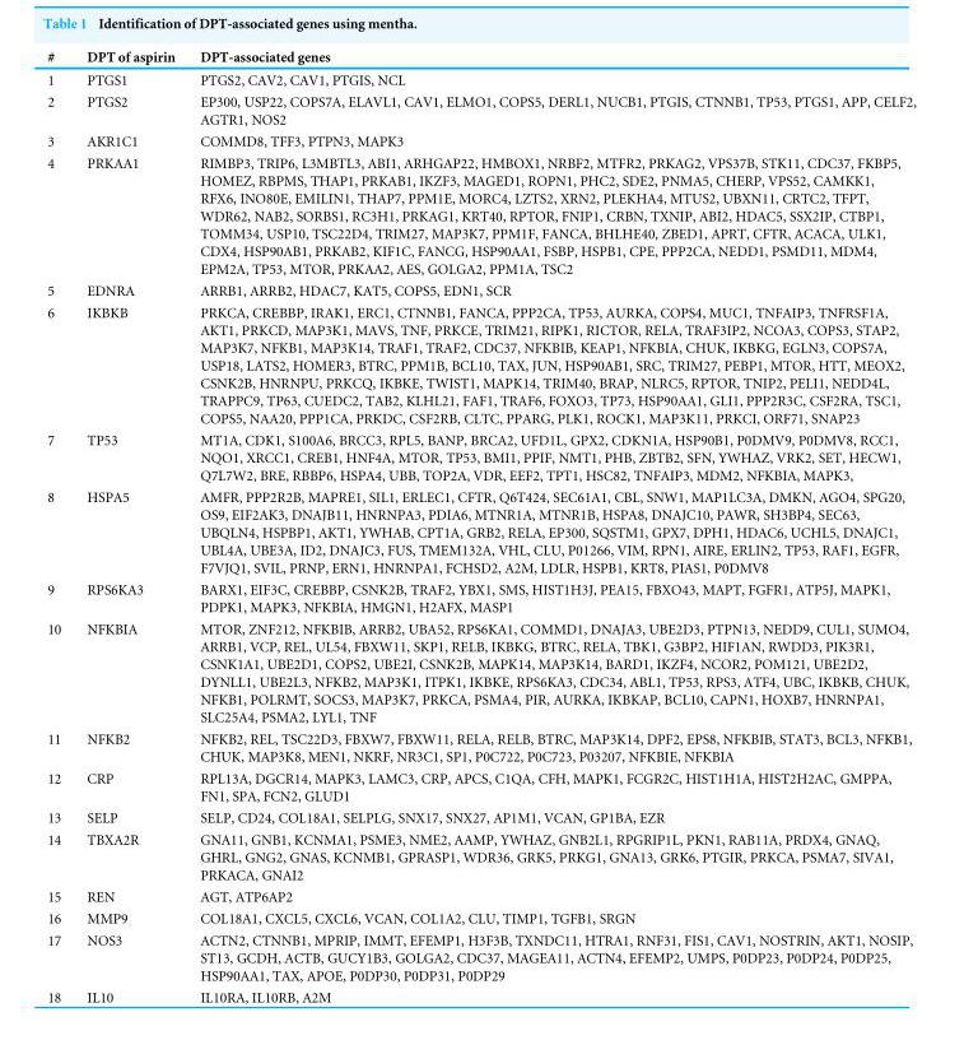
<table><thead><tr><td>#</td><td>DPT of aspirin</td><td>DPT-associated genes</td></tr></thead><tbody><tr><td>1</td><td>PTGS1</td><td>PTGS2, CAV2, CAV1, PTGIS, NCL</td></tr><tr><td>2</td><td>PTGS2</td><td>EP300, USP22, COPS7A, ELAVL1, CAV1, ELMO1, COPS5, DERL1, NUCB1, PTGIS, CTNNB1, TP53, PTGS1, APP, CELF2, AGTR1, NOS2</td></tr><tr><td>3</td><td>AKR1C1</td><td>COMMD8, TFF3, PTPN3, MAPK3</td></tr><tr><td>4</td><td>PRKAA1</td><td>RIMBP3, TRIP6, L3MBTL3, ABI1, ARHGAP22, HMBOX1, NRBF2, MTFR2, PRKAG2, VPS37B, STK11, CDC37, FKBP5, HOMEZ, RBPMS, THAP1, PRKAB1, IKZF3, MAGED1, ROPN1, PHC2, SDE2, PNMA5, CHERP, VPS52, CAMKK1, RFX6, INO80E, EMILIN1, THAP7, PPM1E, MORC4, LZTS2, XRN2, PLEKHA4, MTUS2, UBXN11, CRTC2, TFPT, WDR62, NAB2, SORBS1, RC3H1, PRKAG1, KRT40, RPTOR, FNIP1, CRBN, TXNIP, ABI2, HDAC5, SSX2IP, CTBP1, TOMM34, USP10, TSC22D4, TRIM27, MAP3K7, PPM1F, FANCA, BHLHE40, ZBED1, APRT, CFTR, ACACA, ULK1, CDX4, HSP90AB1, PRKAB2, KIF1C, FANCG, HSP90AA1, FSBP, HSPB1, CPE, PPP2CA, NEDD1, PSMD11, MDM4, EPM2A, TP53, MTOR, PRKAA2, AES, GOLGA2, PPM1A, TSC2</td></tr><tr><td>5</td><td>EDNRA</td><td>ARRB1, ARRB2, HDAC7, KAT5, COPS5, EDN1, SCR</td></tr><tr><td>6</td><td>IKBKB</td><td>PRKCA, CREBBP, IRAK1, ERC1, CTNNB1, FANCA, PPP2CA, TP53, AURKA, COPS4, MUC1, TNFAIP3, TNFRSF1A, AKT1, PRKCD, MAP3K1, MAVS, TNF, PRKCE, TRIM21, RIPK1, RICTOR, RELA, TRAF3IP2, NCOA3, COPS3, STAP2, MAP3K7, NFKB1, MAP3K14, TRAF1, TRAF2, CDC37, NFKBIB, KEAP1, NFKBIA, CHUK, IKBKG, EGLN3, COPS7A, USP18, LATS2, HOMER3, BTRC, PPM1B, BCL10, TAX, JUN, HSP90AB1, SRC, TRIM27, PEBP1, MTOR, HTT, MEOX2, CSNK2B, HNRNPU, PRKCQ, IKBKE, TWIST1, MAPK14, TRIM40, BRAP, NLRC5, RPTOR, TNIP2, PELI1, NEDD4L, TRAPPC9, TP63, CUEDC2, TAB2, KLHL21, FAF1, TRAF6, FOXO3, TP73, HSP90AA1, GLI1, PPP2R3C, CSF2RA, TSC1, COPS5, NAA20, PPP1CA, PRKDC, CSF2RB, CLTC, PPARG, PLK1, ROCK1, MAP3K11, PRKCI, ORF71, SNAP23</td></tr><tr><td>7</td><td>TP53</td><td>MT1A, CDK1, S100A6, BRCC3, RPL5, BANP, BRCA2, UFD1L, GPX2, CDKN1A, HSP90B1, P0DMV9, P0DMV8, RCC1, NQO1, XRCC1, CREB1, HNF4A, MTOR, TP53, BMI1, PPIF, NMT1, PHB, ZBTB2, SFN, YWHAZ, VRK2, SET, HECW1, Q7L7W2, BRE, RBBP6, HSPA4, UBB, TOP2A, VDR, EEF2, TPT1, HSC82, TNFAIP3, MDM2, NFKBIA, MAPK3,</td></tr><tr><td>8</td><td>HSPA5</td><td>AMFR, PPP2R2B, MAPRE1, SIL1, ERLEC1, CFTR, Q6T424, SEC61A1, CBL, SNW1, MAP1LC3A, DMKN, AGO4, SPG20, OS9, EIF2AK3, DNAJB11, HNRNPA3, PDIA6, MTNR1A, MTNR1B, HSPA8, DNAJC10, PAWR, SH3BP4, SEC63, UBQLN4, HSPBP1, AKT1, YWHAB, CPT1A, GRB2, RELA, EP300, SQSTM1, GPX7, DPH1, HDAC6, UCHL5, DNAJC1, UBL4A, UBE3A, ID2, DNAJC3, FUS, TMEM132A, VHL, CLU, P01266, VIM, RPN1, AIRE, ERLIN2, TP53, RAF1, EGFR, F7VJQ1, SVIL, PRNP, ERN1, HNRNPA1, FCHSD2, A2M, LDLR, HSPB1, KRT8, PIAS1, P0DMV8</td></tr><tr><td>9</td><td>RPS6KA3</td><td>BARX1, EIF3C, CREBBP, CSNK2B, TRAF2, YBX1, SMS, HIST1H3J, PEA15, FBXO43, MAPT, FGFR1, ATP5J, MAPK1, PDPK1, MAPK3, NFKBIA, HMGN1, H2AFX, MASP1</td></tr><tr><td>10</td><td>NFKBIA</td><td>MTOR, ZNF212, NFKBIB, ARRB2, UBA52, RPS6KA1, COMMD1, DNAJA3, UBE2D3, PTPN13, NEDD9, CUL1, SUMO4, ARRB1, VCP, REL, UL54, FBXW11, SKP1, RELB, IKBKG, BTRC, RELA, TBK1, G3BP2, HIF1AN, RWDD3, PIK3R1, CSNK1A1, UBE2D1, COPS2, UBE2I, CSNK2B, MAPK14, MAP3K14, BARD1, IKZF4, NCOR2, POM121, UBE2D2, DYNLL1, UBE2L3, NFKB2, MAP3K1, ITPK1, IKBKE, RPS6KA3, CDC34, ABL1, TP53, RPS3, ATF4, UBC, IKBKB, CHUK, NFKB1, POLRMT, SOCS3, MAP3K7, PRKCA, PSMA4, PIR, AURKA, IKBKAP, BCL10, CAPN1, HOXB7, HNRNPA1, SLC25A4, PSMA2, LYL1, TNF</td></tr><tr><td>11</td><td>NFKB2</td><td>NFKB2, REL, TSC22D3, FBXW7, FBXW11, RELA, RELB, BTRC, MAP3K14, DPF2, EPS8, NFKBIB, STAT3, BCL3, NFKB1, CHUK, MAP3K8, MEN1, NKRF, NR3C1, SP1, P0C722, P0C723, P03207, NFKBIE, NFKBIA</td></tr><tr><td>12</td><td>CRP</td><td>RPL13A, DGCR14, MAPK3, LAMC3, CRP, APCS, C1QA, CFH, MAPK1, FCGR2C, HIST1H1A, HIST2H2AC, GMPPA, FN1, SPA, FCN2, GLUD1</td></tr><tr><td>13</td><td>SELP</td><td>SELP, CD24, COL18A1, SELPLG, SNX17, SNX27, AP1M1, VCAN, GP1BA, EZR</td></tr><tr><td>14</td><td>TBXA2R</td><td>GNA11, GNB1, KCNMA1, PSME3, NME2, AAMP, YWHAZ, GNB2L1, RPGRIP1L, PKN1, RAB11A, PRDX4, GNAQ, GHRL, GNG2, GNAS, KCNMB1, GPRASP1, WDR36, GRK5, PRKG1, GNA13, GRK6, PTGIR, PRKCA, PSMA7, SIVA1, PRKACA, GNAI2</td></tr><tr><td>15</td><td>REN</td><td>AGT, ATP6AP2</td></tr><tr><td>16</td><td>MMP9</td><td>COL18A1, CXCL5, CXCL6, VCAN, COL1A2, CLU, TIMP1, TGFB1, SRGN</td></tr><tr><td>17</td><td>NOS3</td><td>ACTN2, CTNNB1, MPRIP, IMMT, EFEMP1, H3F3B, TXNDC11, HTRA1, RNF31, FIS1, CAV1, NOSTRIN, AKT1, NOSIP, ST13, GCDH, ACTB, GUCY1B3, GOLGA2, CDC37, MAGEA11, ACTN4, EFEMP2, UMPS, P0DP23, P0DP24, P0DP25, HSP90AA1, TAX, APOE, P0DP30, P0DP31, P0DP29</td></tr><tr><td>18</td><td>IL10</td><td>IL10RA, IL10RB, A2M</td></tr></tbody></table>